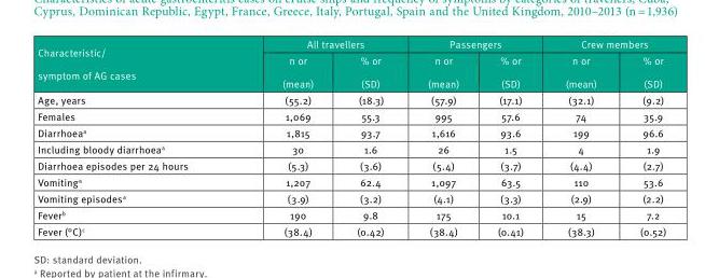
<table><thead><tr><td rowspan="2">Characteristic/ symptom of AG cases</td><td colspan="2">All travellers</td><td colspan="2">Passengers</td><td colspan="2">Crew members</td></tr><tr><td>n or (mean)</td><td>% or (SD)</td><td>n or (mean)</td><td>% or (SD)</td><td>n or (mean)</td><td>% or (SD)</td></tr></thead><tbody><tr><td>Age, years</td><td>(55.2)</td><td>(18.3)</td><td>(57.9)</td><td>(17.1)</td><td>(32.1)</td><td>(9.2)</td></tr><tr><td>Females</td><td>1,069</td><td>55.3</td><td>995</td><td>57.6</td><td>74</td><td>35.9</td></tr><tr><td>Diarrhoea<sup>a</sup></td><td>1,815</td><td>93.7</td><td>1,616</td><td>93.6</td><td>199</td><td>96.6</td></tr><tr><td>Including bloody diarrhoea<sup>a</sup></td><td>30</td><td>1.6</td><td>26</td><td>1.5</td><td>4</td><td>1.9</td></tr><tr><td>Diarrhoea episodes per 24 hours</td><td>(5.3)</td><td>(3.6)</td><td>(5.4)</td><td>(3.7)</td><td>(4.4)</td><td>(2.7)</td></tr><tr><td>Vomiting<sup>a</sup></td><td>1,207</td><td>62.4</td><td>1,097</td><td>63.5</td><td>110</td><td>53.6</td></tr><tr><td>Vomiting episodes<sup>a</sup></td><td>(3.9)</td><td>(3.2)</td><td>(4.1)</td><td>(3.3)</td><td>(2.9)</td><td>(2.2)</td></tr><tr><td>Fever<sup>b</sup></td><td>190</td><td>9.8</td><td>175</td><td>10.1</td><td>15</td><td>7.2</td></tr><tr><td>Fever (°C)<sup>c</sup></td><td>(38.4)</td><td>(0.42)</td><td>(38.4)</td><td>(0.41)</td><td>(38.3)</td><td>(0.52)</td></tr></tbody></table>